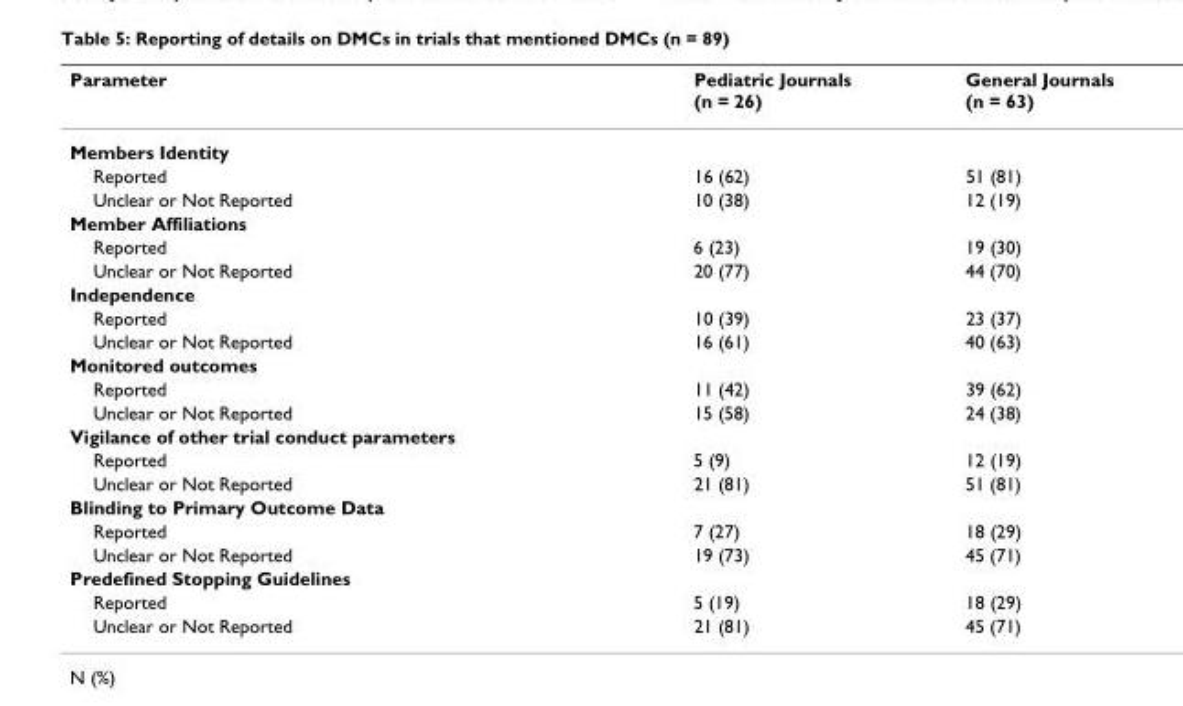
<table><thead><tr><td>Parameter</td><td>Pediatric Journals (n = 26)</td><td>General Journals (n = 63)</td></tr></thead><tbody><tr><td colspan="3">Members Identity</td></tr><tr><td>Reported</td><td>16 (62)</td><td>51 (81)</td></tr><tr><td>Unclear or Not Reported</td><td>10 (38)</td><td>12 (19)</td></tr><tr><td colspan="3">Member Affiliations</td></tr><tr><td>Reported</td><td>6 (23)</td><td>19 (30)</td></tr><tr><td>Unclear or Not Reported</td><td>20 (77)</td><td>44 (70)</td></tr><tr><td colspan="3">Independence</td></tr><tr><td>Reported</td><td>10 (39)</td><td>23 (37)</td></tr><tr><td>Unclear or Not Reported</td><td>16 (61)</td><td>40 (63)</td></tr><tr><td colspan="3">Monitored outcomes</td></tr><tr><td>Reported</td><td>11 (42)</td><td>39 (62)</td></tr><tr><td>Unclear or Not Reported</td><td>15 (58)</td><td>24 (38)</td></tr><tr><td colspan="3">Vigilance of other trial conduct parameters</td></tr><tr><td>Reported</td><td>5 (9)</td><td>12 (19)</td></tr><tr><td>Unclear or Not Reported</td><td>21 (81)</td><td>51 (81)</td></tr><tr><td colspan="3">Blinding to Primary Outcome Data</td></tr><tr><td>Reported</td><td>7 (27)</td><td>18 (29)</td></tr><tr><td>Unclear or Not Reported</td><td>19 (73)</td><td>45 (71)</td></tr><tr><td colspan="3">Predefined Stopping Guidelines</td></tr><tr><td>Reported</td><td>5 (19)</td><td>18 (29)</td></tr><tr><td>Unclear or Not Reported</td><td>21 (81)</td><td>45 (71)</td></tr></tbody></table>